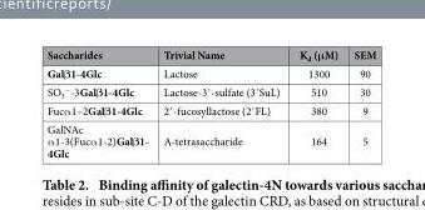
<table><thead><tr><td>Saccharides</td><td>Trivial Name</td><td>K<sub>d</sub> (μM)</td><td>SEM</td></tr></thead><tbody><tr><td>Galβ1-4Glc</td><td>Lactose</td><td>1300</td><td>90</td></tr><tr><td>SO<sub>3</sub> <sup>−</sup>-3Galβ1-4Glc</td><td>Lactose-3′ -sulfate (3′ SuL)</td><td>510</td><td>30</td></tr><tr><td>Fucα 1–2Galβ1-4Glc</td><td>2′ -fucosyllactose (2′ FL)</td><td>380</td><td>9</td></tr><tr><td>GalNAc α 1-3(Fucα 1-2)Galβ1- 4Glc</td><td>A-tetrasaccharide</td><td>164</td><td>5</td></tr></tbody></table>